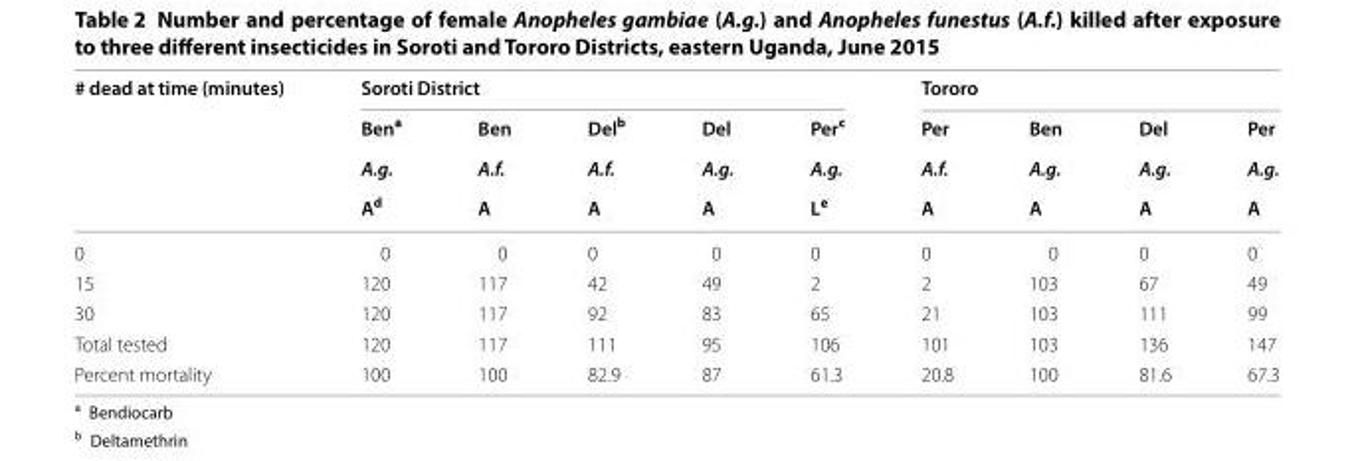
<table><thead><tr><td rowspan="4"># dead at time (minutes)</td><td colspan="5">Soroti District</td><td colspan="4">Tororo</td></tr><tr><td rowspan="3">Ben<sup>a</sup> A.g. A<sup>d</sup></td><td rowspan="3">Ben A.f. A</td><td rowspan="3">Del<sup>b</sup> A.f. A</td><td rowspan="3">Del A.g. A</td><td rowspan="3">Per<sup>c</sup> A.g. L<sup>e</sup></td><td rowspan="3">Per A.f. A</td><td rowspan="3">Ben A.g. A</td><td rowspan="3">Del A.g. A</td><td rowspan="3">Per A.g. A</td></tr><tr></tr><tr></tr></thead><tbody><tr><td>0</td><td>0</td><td>0</td><td>0</td><td>0</td><td>0</td><td>0</td><td>0</td><td>0</td><td>0</td></tr><tr><td>15</td><td>120</td><td>117</td><td>42</td><td>49</td><td>2</td><td>2</td><td>103</td><td>67</td><td>49</td></tr><tr><td>30</td><td>120</td><td>117</td><td>92</td><td>83</td><td>65</td><td>21</td><td>103</td><td>111</td><td>99</td></tr><tr><td>Total tested</td><td>120</td><td>117</td><td>111</td><td>95</td><td>106</td><td>101</td><td>103</td><td>136</td><td>147</td></tr><tr><td>Percent mortality</td><td>100</td><td>100</td><td>82.9</td><td>87</td><td>61.3</td><td>20.8</td><td>100</td><td>81.6</td><td>67.3</td></tr></tbody></table>